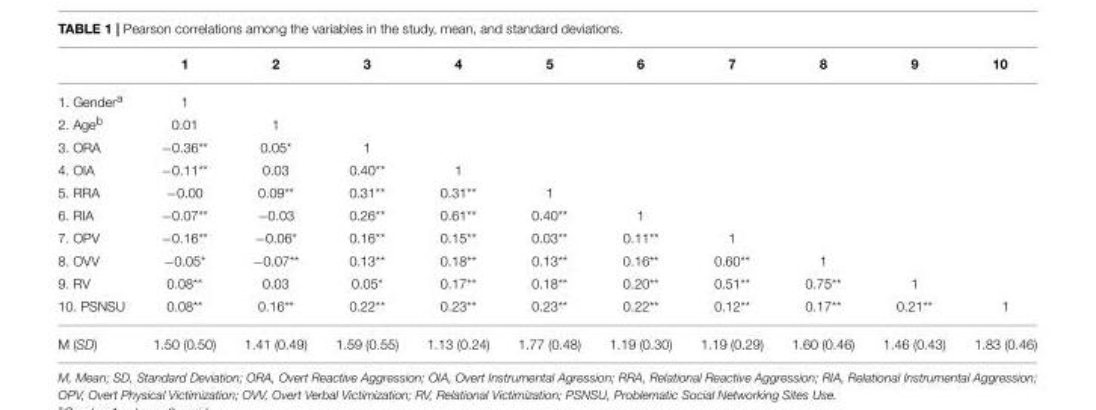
<table><thead><tr><td></td><td>1</td><td>2</td><td>3</td><td>4</td><td>5</td><td>6</td><td>7</td><td>8</td><td>9</td><td>10</td></tr></thead><tbody><tr><td>1. Gender<sup>a</sup></td><td>1</td><td></td><td></td><td></td><td></td><td></td><td></td><td></td><td></td><td></td></tr><tr><td>2. Age<sup>b</sup></td><td>0.01</td><td>1</td><td></td><td></td><td></td><td></td><td></td><td></td><td></td><td></td></tr><tr><td>3. ORA</td><td>−0.36**</td><td>0.05*</td><td>1</td><td></td><td></td><td></td><td></td><td></td><td></td><td></td></tr><tr><td>4. OIA</td><td>−0.11**</td><td>0.03</td><td>0.40**</td><td>1</td><td></td><td></td><td></td><td></td><td></td><td></td></tr><tr><td>5. RRA</td><td>−0.00</td><td>0.09**</td><td>0.31**</td><td>0.31**</td><td>1</td><td></td><td></td><td></td><td></td><td></td></tr><tr><td>6. RIA</td><td>−0.07**</td><td>−0.03</td><td>0.26**</td><td>0.61**</td><td>0.40**</td><td>1</td><td></td><td></td><td></td><td></td></tr><tr><td>7. OPV</td><td>−0.16**</td><td>−0.06*</td><td>0.16**</td><td>0.15**</td><td>0.03**</td><td>0.11**</td><td>1</td><td></td><td></td><td></td></tr><tr><td>8. OVV</td><td>−0.05*</td><td>−0.07**</td><td>0.13**</td><td>0.18**</td><td>0.13**</td><td>0.16**</td><td>0.60**</td><td>1</td><td></td><td></td></tr><tr><td>9. RV</td><td>0.08**</td><td>0.03</td><td>0.05*</td><td>0.17**</td><td>0.18**</td><td>0.20**</td><td>0.51**</td><td>0.75**</td><td>1</td><td></td></tr><tr><td>10. PSNSU</td><td>0.08**</td><td>0.16**</td><td>0.22**</td><td>0.23**</td><td>0.23**</td><td>0.22**</td><td>0.12**</td><td>0.17**</td><td>0.21**</td><td>1</td></tr><tr><td>M (SD)</td><td>1.50 (0.50)</td><td>1.41 (0.49)</td><td>1.59 (0.55)</td><td>1.13 (0.24)</td><td>1.77 (0.48)</td><td>1.19 (0.30)</td><td>1.19 (0.29)</td><td>1.60 (0.46)</td><td>1.46 (0.43)</td><td>1.83 (0.46)</td></tr></tbody></table>